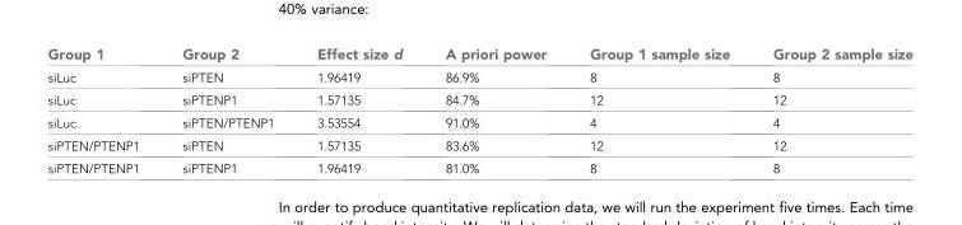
<table><thead><tr><td>Group 1</td><td>Group 2</td><td>Effect size d</td><td>A priori power</td><td>Group 1 sample size</td><td>Group 2 sample size</td></tr></thead><tbody><tr><td>siLuc</td><td>siPTEN</td><td>1.96419</td><td>86.9%</td><td>8</td><td>8</td></tr><tr><td>siLuc</td><td>siPTENP1</td><td>1.57135</td><td>84.7%</td><td>12</td><td>12</td></tr><tr><td>siLuc</td><td>siPTEN/PTENP1</td><td>3.53554</td><td>91.0%</td><td>4</td><td>4</td></tr><tr><td>siPTEN/PTENP1</td><td>siPTEN</td><td>1.57135</td><td>83.6%</td><td>12</td><td>12</td></tr><tr><td>siPTEN/PTENP1</td><td>siPTENP1</td><td>1.96419</td><td>81.0%</td><td>8</td><td>8</td></tr></tbody></table>